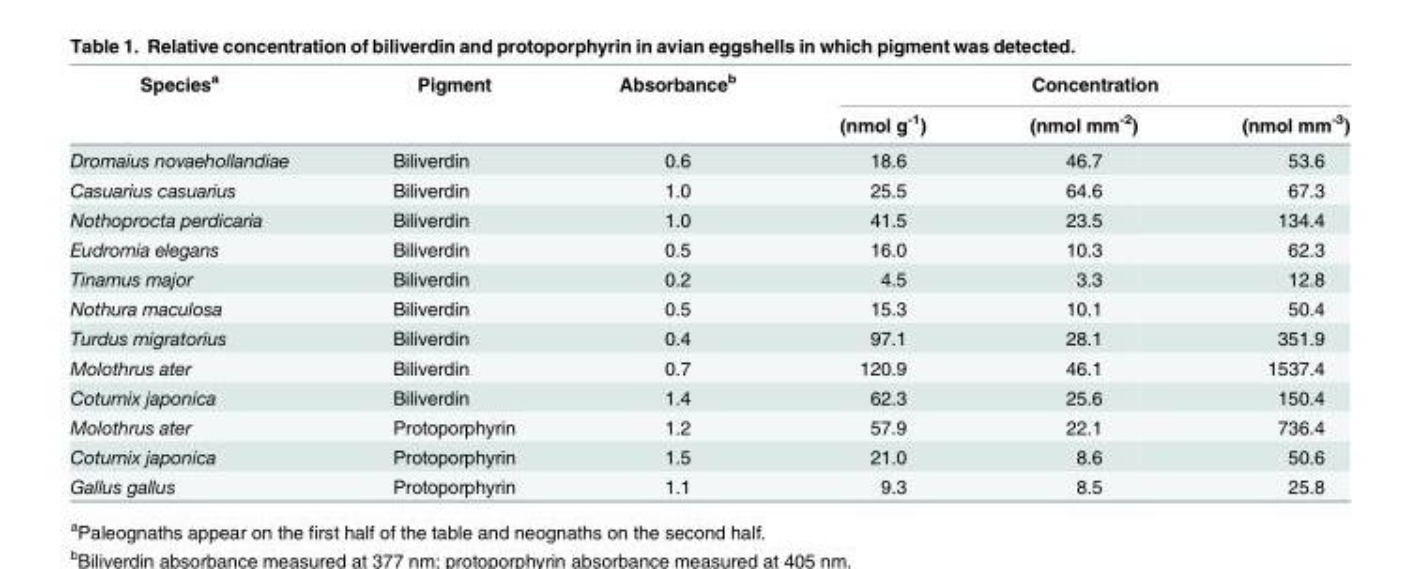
<table><thead><tr><td rowspan="2">Species<sup>a</sup></td><td rowspan="2">Pigment</td><td rowspan="2">Absorbance<sup>b</sup></td><td colspan="3">Concentration</td></tr><tr><td>(nmol g<sup>-1</sup>)</td><td>(nmol mm<sup>-2</sup>)</td><td>(nmol mm<sup>-3</sup>)</td></tr></thead><tbody><tr><td>Dromaius novaehollandiae</td><td>Biliverdin</td><td>0.6</td><td>18.6</td><td>46.7</td><td>53.6</td></tr><tr><td>Casuarius casuarius</td><td>Biliverdin</td><td>1.0</td><td>25.5</td><td>64.6</td><td>67.3</td></tr><tr><td>Nothoprocta perdicaria</td><td>Biliverdin</td><td>1.0</td><td>41.5</td><td>23.5</td><td>134.4</td></tr><tr><td>Eudromia elegans</td><td>Biliverdin</td><td>0.5</td><td>16.0</td><td>10.3</td><td>62.3</td></tr><tr><td>Tinamus major</td><td>Biliverdin</td><td>0.2</td><td>4.5</td><td>3.3</td><td>12.8</td></tr><tr><td>Nothura maculosa</td><td>Biliverdin</td><td>0.5</td><td>15.3</td><td>10.1</td><td>50.4</td></tr><tr><td>Turdus migratorius</td><td>Biliverdin</td><td>0.4</td><td>97.1</td><td>28.1</td><td>351.9</td></tr><tr><td>Molothrus ater</td><td>Biliverdin</td><td>0.7</td><td>120.9</td><td>46.1</td><td>1537.4</td></tr><tr><td>Coturnix japonica</td><td>Biliverdin</td><td>1.4</td><td>62.3</td><td>25.6</td><td>150.4</td></tr><tr><td>Molothrus ater</td><td>Protoporphyrin</td><td>1.2</td><td>57.9</td><td>22.1</td><td>736.4</td></tr><tr><td>Coturnix japonica</td><td>Protoporphyrin</td><td>1.5</td><td>21.0</td><td>8.6</td><td>50.6</td></tr><tr><td>Gallus gallus</td><td>Protoporphyrin</td><td>1.1</td><td>9.3</td><td>8.5</td><td>25.8</td></tr></tbody></table>